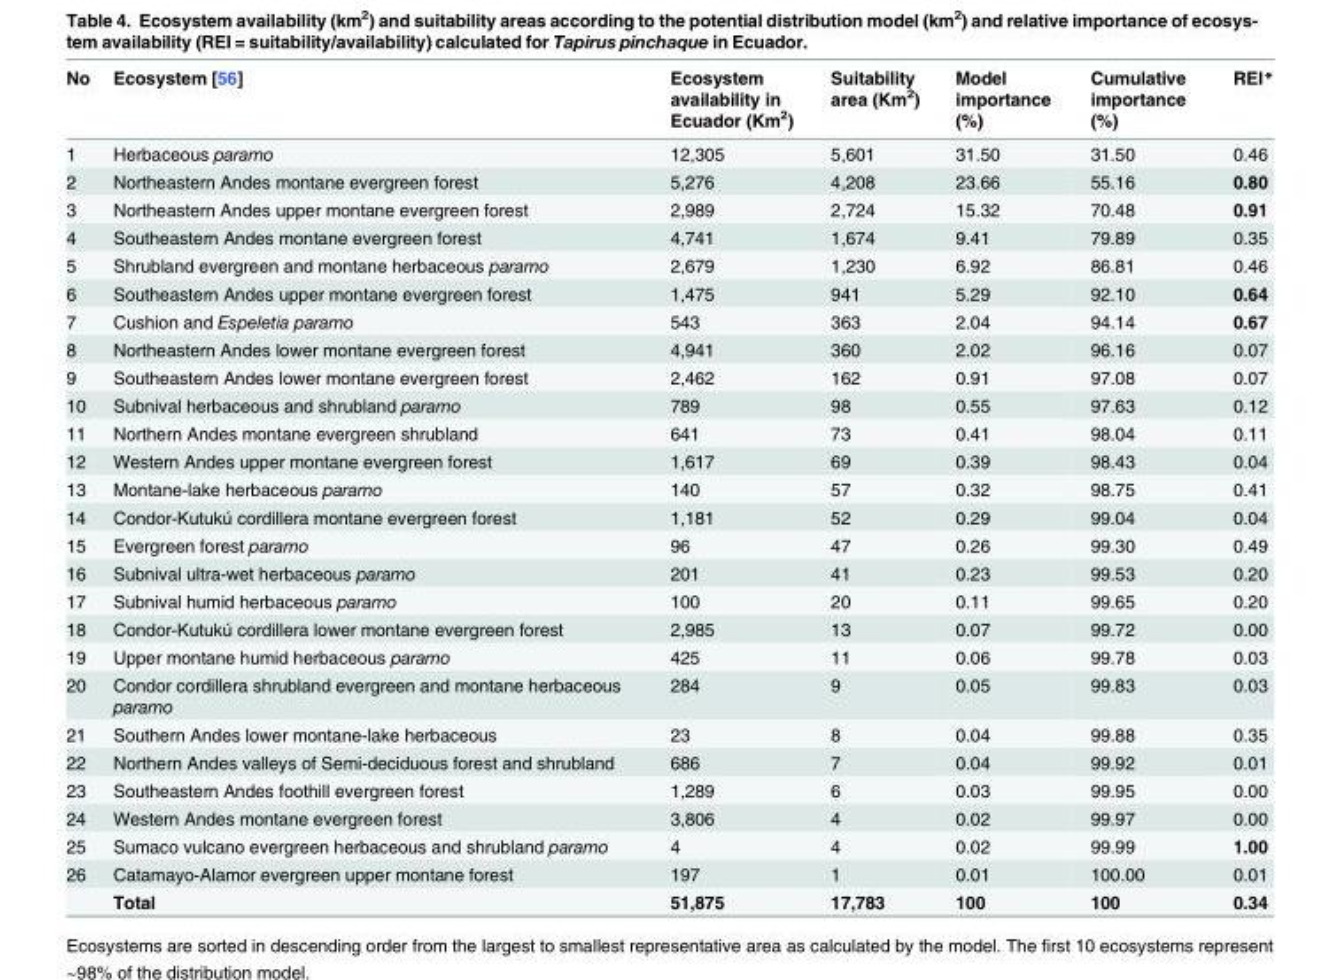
<table><thead><tr><td>No</td><td>Ecosystem [56]</td><td>Ecosystem availability in Ecuador (Km<sup>2</sup>)</td><td>Suitability area (Km<sup>2</sup>)</td><td>Model importance (%)</td><td>Cumulative importance (%)</td><td>REI*</td></tr></thead><tbody><tr><td>1</td><td>Herbaceous paramo</td><td>12,305</td><td>5,601</td><td>31.50</td><td>31.50</td><td>0.46</td></tr><tr><td>2</td><td>Northeastern Andes montane evergreen forest</td><td>5,276</td><td>4,208</td><td>23.66</td><td>55.16</td><td>0.80</td></tr><tr><td>3</td><td>Northeastern Andes upper montane evergreen forest</td><td>2,989</td><td>2,724</td><td>15.32</td><td>70.48</td><td>0.91</td></tr><tr><td>4</td><td>Southeastern Andes montane evergreen forest</td><td>4,741</td><td>1,674</td><td>9.41</td><td>79.89</td><td>0.35</td></tr><tr><td>5</td><td>Shrubland evergreen and montane herbaceous paramo</td><td>2,679</td><td>1,230</td><td>6.92</td><td>86.81</td><td>0.46</td></tr><tr><td>6</td><td>Southeastern Andes upper montane evergreen forest</td><td>1,475</td><td>941</td><td>5.29</td><td>92.10</td><td>0.64</td></tr><tr><td>7</td><td>Cushion and Espeletia paramo</td><td>543</td><td>363</td><td>2.04</td><td>94.14</td><td>0.67</td></tr><tr><td>8</td><td>Northeastern Andes lower montane evergreen forest</td><td>4,941</td><td>360</td><td>2.02</td><td>96.16</td><td>0.07</td></tr><tr><td>9</td><td>Southeastern Andes lower montane evergreen forest</td><td>2,462</td><td>162</td><td>0.91</td><td>97.08</td><td>0.07</td></tr><tr><td>10</td><td>Subnival herbaceous and shrubland paramo</td><td>789</td><td>98</td><td>0.55</td><td>97.63</td><td>0.12</td></tr><tr><td>11</td><td>Northern Andes montane evergreen shrubland</td><td>641</td><td>73</td><td>0.41</td><td>98.04</td><td>0.11</td></tr><tr><td>12</td><td>Western Andes upper montane evergreen forest</td><td>1,617</td><td>69</td><td>0.39</td><td>98.43</td><td>0.04</td></tr><tr><td>13</td><td>Montane-lake herbaceous paramo</td><td>140</td><td>57</td><td>0.32</td><td>98.75</td><td>0.41</td></tr><tr><td>14</td><td>Condor-Kutukú cordillera montane evergreen forest</td><td>1,181</td><td>52</td><td>0.29</td><td>99.04</td><td>0.04</td></tr><tr><td>15</td><td>Evergreen forest paramo</td><td>96</td><td>47</td><td>0.26</td><td>99.30</td><td>0.49</td></tr><tr><td>16</td><td>Subnival ultra-wet herbaceous paramo</td><td>201</td><td>41</td><td>0.23</td><td>99.53</td><td>0.20</td></tr><tr><td>17</td><td>Subnival humid herbaceous paramo</td><td>100</td><td>20</td><td>0.11</td><td>99.65</td><td>0.20</td></tr><tr><td>18</td><td>Condor-Kutukú cordillera lower montane evergreen forest</td><td>2,985</td><td>13</td><td>0.07</td><td>99.72</td><td>0.00</td></tr><tr><td>19</td><td>Upper montane humid herbaceous paramo</td><td>425</td><td>11</td><td>0.06</td><td>99.78</td><td>0.03</td></tr><tr><td>20</td><td>Condor cordillera shrubland evergreen and montane herbaceous paramo</td><td>284</td><td>9</td><td>0.05</td><td>99.83</td><td>0.03</td></tr><tr><td>21</td><td>Southern Andes lower montane-lake herbaceous</td><td>23</td><td>8</td><td>0.04</td><td>99.88</td><td>0.35</td></tr><tr><td>22</td><td>Northern Andes valleys of Semi-deciduous forest and shrubland</td><td>686</td><td>7</td><td>0.04</td><td>99.92</td><td>0.01</td></tr><tr><td>23</td><td>Southeastern Andes foothill evergreen forest</td><td>1,289</td><td>6</td><td>0.03</td><td>99.95</td><td>0.00</td></tr><tr><td>24</td><td>Western Andes montane evergreen forest</td><td>3,806</td><td>4</td><td>0.02</td><td>99.97</td><td>0.00</td></tr><tr><td>25</td><td>Sumaco vulcano evergreen herbaceous and shrubland paramo</td><td>4</td><td>4</td><td>0.02</td><td>99.99</td><td>1.00</td></tr><tr><td rowspan="2">26</td><td>Catamayo-Alamor evergreen upper montane forest</td><td>197</td><td>1</td><td>0.01</td><td>100.00</td><td>0.01</td></tr><tr><td>Total</td><td>51,875</td><td>17,783</td><td>100</td><td>100</td><td>0.34</td></tr></tbody></table>